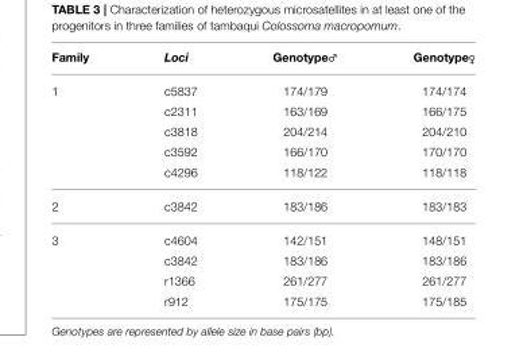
<table><thead><tr><td>Family</td><td>Loci</td><td>Genotype♂</td><td>Genotype♀</td></tr></thead><tbody><tr><td rowspan="5">1</td><td>c5837</td><td>174/179</td><td>174/174</td></tr><tr><td>c2311</td><td>163/169</td><td>166/175</td></tr><tr><td>c3818</td><td>204/214</td><td>204/210</td></tr><tr><td>c3592</td><td>166/170</td><td>170/170</td></tr><tr><td>c4296</td><td>118/122</td><td>118/118</td></tr><tr><td>2</td><td>c3842</td><td>183/186</td><td>183/183</td></tr><tr><td rowspan="4">3</td><td>c4604</td><td>142/151</td><td>148/151</td></tr><tr><td>c3842</td><td>183/186</td><td>183/186</td></tr><tr><td>r1366</td><td>261/277</td><td>261/277</td></tr><tr><td>r912</td><td>175/175</td><td>175/185</td></tr></tbody></table>